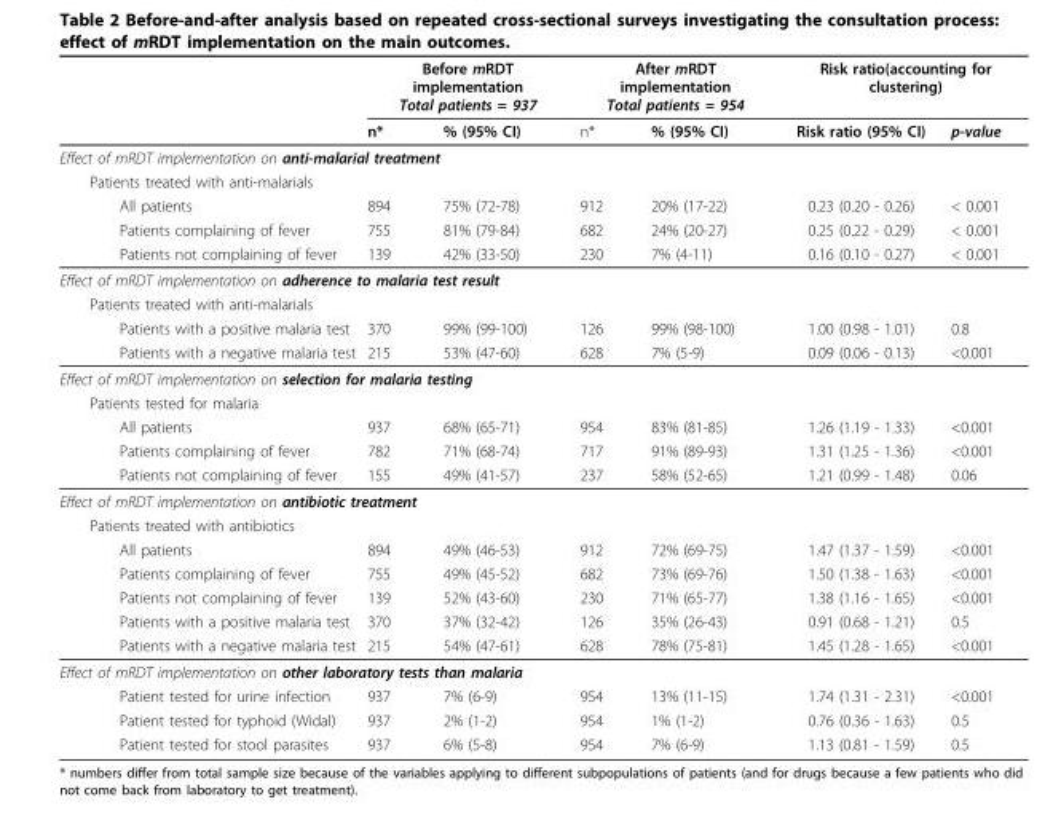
<table><thead><tr><td rowspan="2"></td><td colspan="2">Before mRDT implementation Total patients = 937</td><td colspan="2">After mRDT implementation Total patients = 954</td><td colspan="2">Risk ratio(accounting for clustering)</td></tr><tr><td>n*</td><td>% (95% CI)</td><td>n*</td><td>% (95% CI)</td><td>Risk ratio (95% CI)</td><td>p-value</td></tr></thead><tbody><tr><td colspan="7">Effect of mRDT implementation on anti-malarial treatment</td></tr><tr><td colspan="7">Patients treated with anti-malarials</td></tr><tr><td>All patients</td><td>894</td><td>75% (72-78)</td><td>912</td><td>20% (17-22)</td><td>0.23 (0.20 - 0.26)</td><td>&lt; 0.001</td></tr><tr><td>Patients complaining of fever</td><td>755</td><td>81% (79-84)</td><td>682</td><td>24% (20-27)</td><td>0.25 (0.22 - 0.29)</td><td>&lt; 0.001</td></tr><tr><td>Patients not complaining of fever</td><td>139</td><td>42% (33-50)</td><td>230</td><td>7% (4-11)</td><td>0.16 (0.10 - 0.27)</td><td>&lt; 0.001</td></tr><tr><td colspan="7">Effect of mRDT implementation on adherence to malaria test result</td></tr><tr><td colspan="7">Patients treated with anti-malarials</td></tr><tr><td>Patients with a positive malaria test</td><td>370</td><td>99% (99-100)</td><td>126</td><td>99% (98-100)</td><td>1.00 (0.98 - 1.01)</td><td>0.8</td></tr><tr><td>Patients with a negative malaria test</td><td>215</td><td>53% (47-60)</td><td>628</td><td>7% (5-9)</td><td>0.09 (0.06 - 0.13)</td><td>&lt;0.001</td></tr><tr><td colspan="7">Effect of mRDT implementation on selection for malaria testing</td></tr><tr><td colspan="7">Patients tested for malaria</td></tr><tr><td>All patients</td><td>937</td><td>68% (65-71)</td><td>954</td><td>83% (81-85)</td><td>1.26 (1.19 - 1.33)</td><td>&lt;0.001</td></tr><tr><td>Patients complaining of fever</td><td>782</td><td>71% (68-74)</td><td>717</td><td>91% (89-93)</td><td>1.31 (1.25 - 1.36)</td><td>&lt;0.001</td></tr><tr><td>Patients not complaining of fever</td><td>155</td><td>49% (41-57)</td><td>237</td><td>58% (52-65)</td><td>1.21 (0.99 - 1.48)</td><td>0.06</td></tr><tr><td colspan="7">Effect of mRDT implementation on antibiotic treatment</td></tr><tr><td colspan="7">Patients treated with antibiotics</td></tr><tr><td>All patients</td><td>894</td><td>49% (46-53)</td><td>912</td><td>72% (69-75)</td><td>1.47 (1.37 - 1.59)</td><td>&lt;0.001</td></tr><tr><td>Patients complaining of fever</td><td>755</td><td>49% (45-52)</td><td>682</td><td>73% (69-76)</td><td>1.50 (1.38 - 1.63)</td><td>&lt;0.001</td></tr><tr><td>Patients not complaining of fever</td><td>139</td><td>52% (43-60)</td><td>230</td><td>71% (65-77)</td><td>1.38 (1.16 - 1.65)</td><td>&lt;0.001</td></tr><tr><td>Patients with a positive malaria test</td><td>370</td><td>37% (32-42)</td><td>126</td><td>35% (26-43)</td><td>0.91 (0.68 - 1.21)</td><td>0.5</td></tr><tr><td>Patients with a negative malaria test</td><td>215</td><td>54% (47-61)</td><td>628</td><td>78% (75-81)</td><td>1.45 (1.28 - 1.65)</td><td>&lt;0.001</td></tr><tr><td colspan="7">Effect of mRDT implementation on other laboratory tests than malaria</td></tr><tr><td>Patient tested for urine infection</td><td>937</td><td>7% (6-9)</td><td>954</td><td>13% (11-15)</td><td>1.74 (1.31 - 2.31)</td><td>&lt;0.001</td></tr><tr><td>Patient tested for typhoid (Widal)</td><td>937</td><td>2% (1-2)</td><td>954</td><td>1% (1-2)</td><td>0.76 (0.36 - 1.63)</td><td>0.5</td></tr><tr><td>Patient tested for stool parasites</td><td>937</td><td>6% (5-8)</td><td>954</td><td>7% (6-9)</td><td>1.13 (0.81 - 1.59)</td><td>0.5</td></tr></tbody></table>